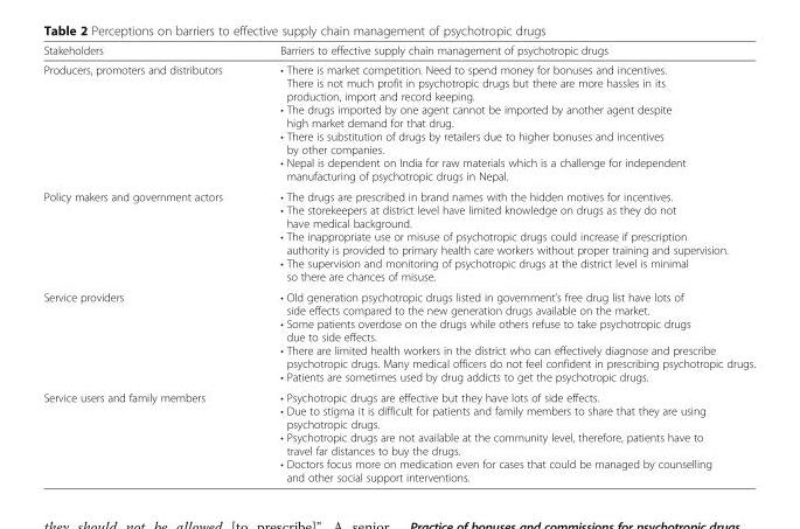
<table><thead><tr><td>Stakeholders</td><td>Barriers to effective supply chain management of psychotropic drugs</td></tr></thead><tbody><tr><td>Producers, promoters and distributors</td><td>• There is market competition. Need to spend money for bonuses and incentives. There is not much profit in psychotropic drugs but there are more hassles in its production, import and record keeping. • The drugs imported by one agent cannot be imported by another agent despite high market demand for that drug. • There is substitution of drugs by retailers due to higher bonuses and incentives by other companies. • Nepal is dependent on India for raw materials which is a challenge for independent manufacturing of psychotropic drugs in Nepal.</td></tr><tr><td>Policy makers and government actors</td><td>• The drugs are prescribed in brand names with the hidden motives for incentives. • The storekeepers at district level have limited knowledge on drugs as they do not have medical background. • The inappropriate use or misuse of psychotropic drugs could increase if prescription authority is provided to primary health care workers without proper training and supervision. • The supervision and monitoring of psychotropic drugs at the district level is minimal so there are chances of misuse.</td></tr><tr><td>Service providers</td><td>• Old generation psychotropic drugs listed in government’s free drug list have lots of side effects compared to the new generation drugs available on the market. • Some patients overdose on the drugs while others refuse to take psychotropic drugs due to side effects. • There are limited health workers in the district who can effectively diagnose and prescribe psychotropic drugs. Many medical officers do not feel confident in prescribing psychotropic drugs. • Patients are sometimes used by drug addicts to get the psychotropic drugs.</td></tr><tr><td>Service users and family members</td><td>• Psychotropic drugs are effective but they have lots of side effects. • Due to stigma it is difficult for patients and family members to share that they are using psychotropic drugs. • Psychotropic drugs are not available at the community level, therefore, patients have to travel far distances to buy the drugs. • Doctors focus more on medication even for cases that could be managed by counselling and other social support interventions.</td></tr></tbody></table>